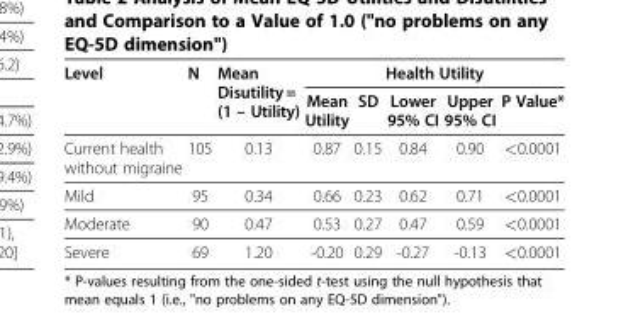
<table><thead><tr><td rowspan="2">Level</td><td rowspan="2">N</td><td rowspan="2">Mean Disutility = (1 – Utility)</td><td colspan="5">Health Utility</td></tr><tr><td>Mean Utility</td><td>SD</td><td>Lower 95% CI</td><td>Upper 95% CI</td><td>P Value*</td></tr></thead><tbody><tr><td>Current health without migraine</td><td>105</td><td>0.13</td><td>0.87</td><td>0.15</td><td>0.84</td><td>0.90</td><td>&lt;0.0001</td></tr><tr><td>Mild</td><td>95</td><td>0.34</td><td>0.66</td><td>0.23</td><td>0.62</td><td>0.71</td><td>&lt;0.0001</td></tr><tr><td>Moderate</td><td>90</td><td>0.47</td><td>0.53</td><td>0.27</td><td>0.47</td><td>0.59</td><td>&lt;0.0001</td></tr><tr><td>Severe</td><td>69</td><td>1.20</td><td>-0.20</td><td>0.29</td><td>-0.27</td><td>-0.13</td><td>&lt;0.0001</td></tr></tbody></table>